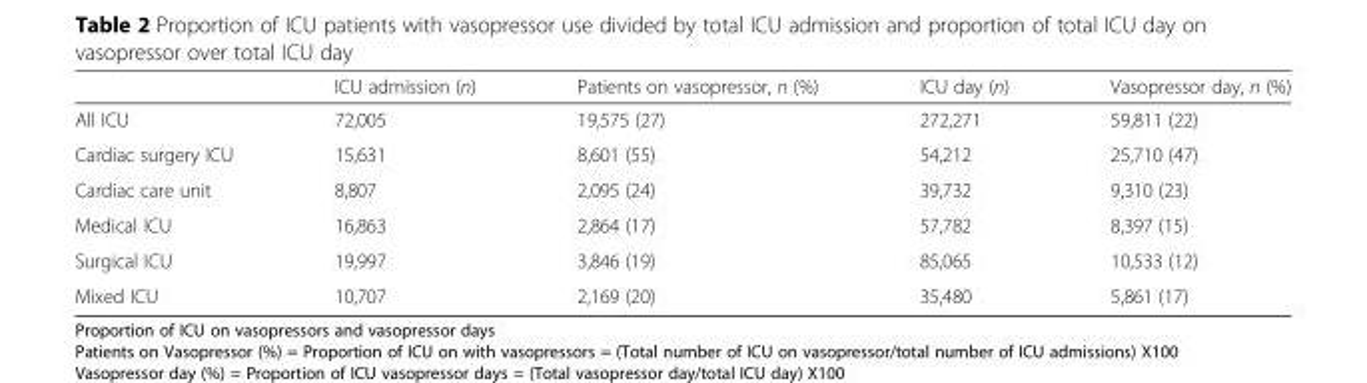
<table><thead><tr><td></td><td>ICU admission (n)</td><td>Patients on vasopressor, n (%)</td><td>ICU day (n)</td><td>Vasopressor day, n (%)</td></tr></thead><tbody><tr><td>All ICU</td><td>72,005</td><td>19,575 (27)</td><td>272,271</td><td>59,811 (22)</td></tr><tr><td>Cardiac surgery ICU</td><td>15,631</td><td>8,601 (55)</td><td>54,212</td><td>25,710 (47)</td></tr><tr><td>Cardiac care unit</td><td>8,807</td><td>2,095 (24)</td><td>39,732</td><td>9,310 (23)</td></tr><tr><td>Medical ICU</td><td>16,863</td><td>2,864 (17)</td><td>57,782</td><td>8,397 (15)</td></tr><tr><td>Surgical ICU</td><td>19,997</td><td>3,846 (19)</td><td>85,065</td><td>10,533 (12)</td></tr><tr><td>Mixed ICU</td><td>10,707</td><td>2,169 (20)</td><td>35,480</td><td>5,861 (17)</td></tr></tbody></table>